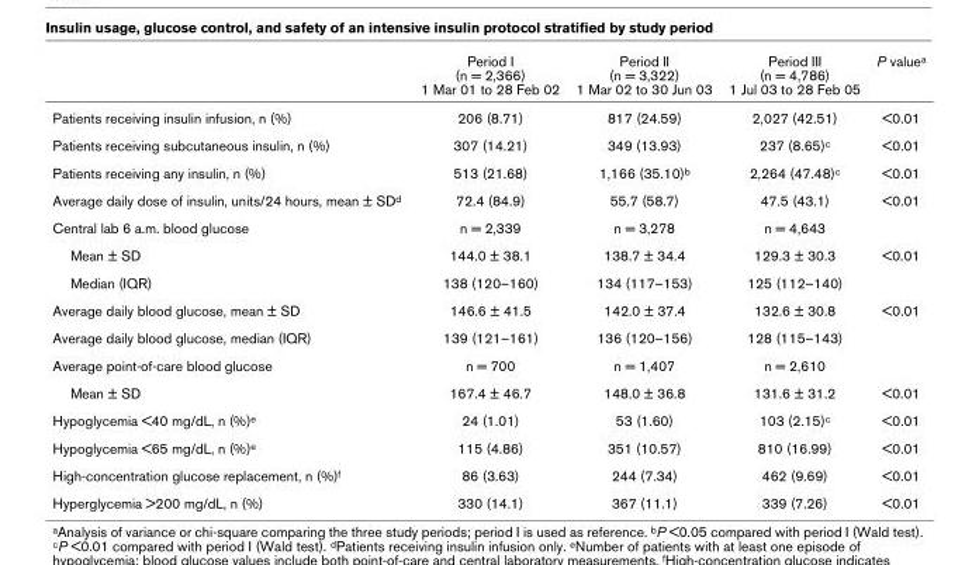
<table><thead><tr><td></td><td>Period I (n = 2,366) 1 Mar 01 to 28 Feb 02</td><td>Period II (n = 3,322) 1 Mar 02 to 30 Jun 03</td><td>Period III (n = 4,786) 1 Jul 03 to 28 Feb 05</td><td>P value<sup>a</sup></td></tr></thead><tbody><tr><td>Patients receiving insulin infusion, n (%)</td><td>206 (8.71)</td><td>817 (24.59)</td><td>2,027 (42.51)</td><td>&lt;0.01</td></tr><tr><td>Patients receiving subcutaneous insulin, n (%)</td><td>307 (14.21)</td><td>349 (13.93)</td><td>237 (8.65)<sup>c</sup></td><td>&lt;0.01</td></tr><tr><td>Patients receiving any insulin, n (%)</td><td>513 (21.68)</td><td>1,166 (35.10)<sup>b</sup></td><td>2,264 (47.48)<sup>c</sup></td><td>&lt;0.01</td></tr><tr><td>Average daily dose of insulin, units/24 hours, mean ± SD<sup>d</sup></td><td>72.4 (84.9)</td><td>55.7 (58.7)</td><td>47.5 (43.1)</td><td>&lt;0.01</td></tr><tr><td>Central lab 6 a.m. blood glucose</td><td>n = 2,339</td><td>n = 3,278</td><td>n = 4,643</td><td></td></tr><tr><td>Mean ± SD</td><td>144.0 ± 38.1</td><td>138.7 ± 34.4</td><td>129.3 ± 30.3</td><td>&lt;0.01</td></tr><tr><td>Median (IQR)</td><td>138 (120–160)</td><td>134 (117–153)</td><td>125 (112–140)</td><td></td></tr><tr><td>Average daily blood glucose, mean ± SD</td><td>146.6 ± 41.5</td><td>142.0 ± 37.4</td><td>132.6 ± 30.8</td><td>&lt;0.01</td></tr><tr><td>Average daily blood glucose, median (IQR)</td><td>139 (121–161)</td><td>136 (120–156)</td><td>128 (115–143)</td><td></td></tr><tr><td>Average point-of-care blood glucose</td><td>n = 700</td><td>n = 1,407</td><td>n = 2,610</td><td></td></tr><tr><td>Mean ± SD</td><td>167.4 ± 46.7</td><td>148.0 ± 36.8</td><td>131.6 ± 31.2</td><td>&lt;0.01</td></tr><tr><td>Hypoglycemia &lt;40 mg/dL, n (%)<sup>e</sup></td><td>24 (1.01)</td><td>53 (1.60)</td><td>103 (2.15)<sup>c</sup></td><td>&lt;0.01</td></tr><tr><td>Hypoglycemia &lt;65 mg/dL, n (%)<sup>e</sup></td><td>115 (4.86)</td><td>351 (10.57)</td><td>810 (16.99)</td><td>&lt;0.01</td></tr><tr><td>High-concentration glucose replacement, n (%)<sup>f</sup></td><td>86 (3.63)</td><td>244 (7.34)</td><td>462 (9.69)</td><td>&lt;0.01</td></tr><tr><td>Hyperglycemia &gt;200 mg/dL, n (%)</td><td>330 (14.1)</td><td>367 (11.1)</td><td>339 (7.26)</td><td>&lt;0.01</td></tr></tbody></table>